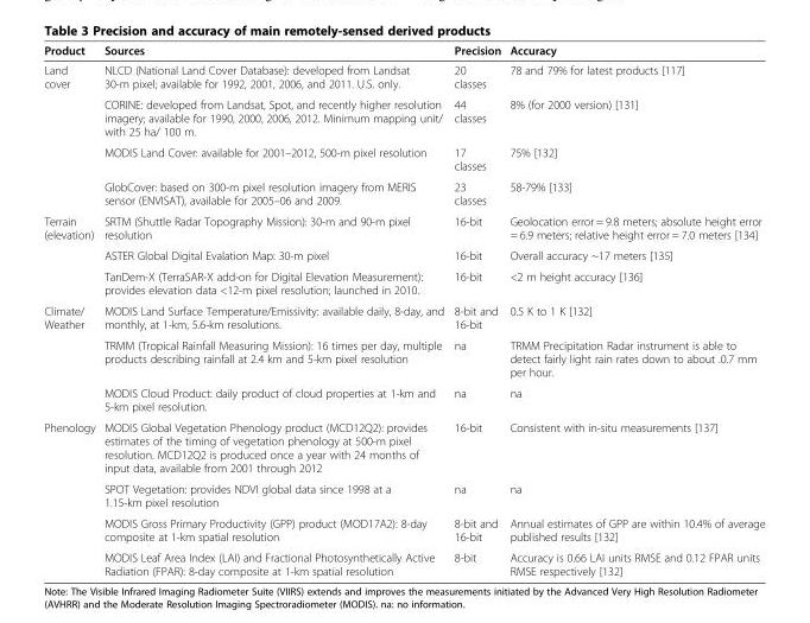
<table><thead><tr><td>Product</td><td>Sources</td><td>Precision</td><td>Accuracy</td></tr></thead><tbody><tr><td rowspan="4">Land cover</td><td>NLCD (National Land Cover Database): developed from Landsat 30-m pixel; available for 1992, 2001, 2006, and 2011. U.S. only.</td><td>20 classes</td><td>78 and 79% for latest products [117]</td></tr><tr><td>CORINE: developed from Landsat, Spot, and recently higher resolution imagery; available for 1990, 2000, 2006, 2012. Minimum mapping unit/ with 25 ha/ 100 m.</td><td>44 classes</td><td>8% (for 2000 version) [131]</td></tr><tr><td>MODIS Land Cover: available for 2001–2012, 500-m pixel resolution</td><td>17 classes</td><td>75% [132]</td></tr><tr><td>GlobCover: based on 300-m pixel resolution imagery from MERIS sensor (ENVISAT), available for 2005–06 and 2009.</td><td>23 classes</td><td>58-79% [133]</td></tr><tr><td rowspan="3">Terrain (elevation)</td><td>SRTM (Shuttle Radar Topography Mission): 30-m and 90-m pixel resolution</td><td>16-bit</td><td>Geolocation error = 9.8 meters; absolute height error = 6.9 meters; relative height error = 7.0 meters [134]</td></tr><tr><td>ASTER Global Digital Evalation Map: 30-m pixel</td><td>16-bit</td><td>Overall accuracy ~17 meters [135]</td></tr><tr><td>TanDem-X (TerraSAR-X add-on for Digital Elevation Measurement): provides elevation data &lt;12-m pixel resolution; launched in 2010.</td><td>16-bit</td><td>&lt;2 m height accuracy [136]</td></tr><tr><td rowspan="3">Climate/ Weather</td><td>MODIS Land Surface Temperature/Emissivity: available daily, 8-day, and monthly, at 1-km, 5.6-km resolutions.</td><td>8-bit and 16-bit</td><td>0.5 K to 1 K [132]</td></tr><tr><td>TRMM (Tropical Rainfall Measuring Mission): 16 times per day, multiple products describing rainfall at 2.4 km and 5-km pixel resolution</td><td>na</td><td>TRMM Precipitation Radar instrument is able to detect fairly light rain rates down to about .0.7 mm per hour.</td></tr><tr><td>MODIS Cloud Product: daily product of cloud properties at 1-km and 5-km pixel resolution.</td><td>na</td><td>na</td></tr><tr><td rowspan="4">Phenology</td><td>MODIS Global Vegetation Phenology product (MCD12Q2): provides estimates of the timing of vegetation phenology at 500-m pixel resolution. MCD12Q2 is produced once a year with 24 months of input data, available from 2001 through 2012</td><td>16-bit</td><td>Consistent with in-situ measurements [137]</td></tr><tr><td>SPOT Vegetation: provides NDVI global data since 1998 at a 1.15-km pixel resolution</td><td>na</td><td>na</td></tr><tr><td>MODIS Gross Primary Productivity (GPP) product (MOD17A2): 8-day composite at 1-km spatial resolution</td><td>8-bit and 16-bit</td><td>Annual estimates of GPP are within 10.4% of average published results [132]</td></tr><tr><td>MODIS Leaf Area Index (LAI) and Fractional Photosynthetically Active Radiation (FPAR): 8-day composite at 1-km spatial resolution</td><td>8-bit</td><td>Accuracy is 0.66 LAI units RMSE and 0.12 FPAR units RMSE respectively [132]</td></tr></tbody></table>